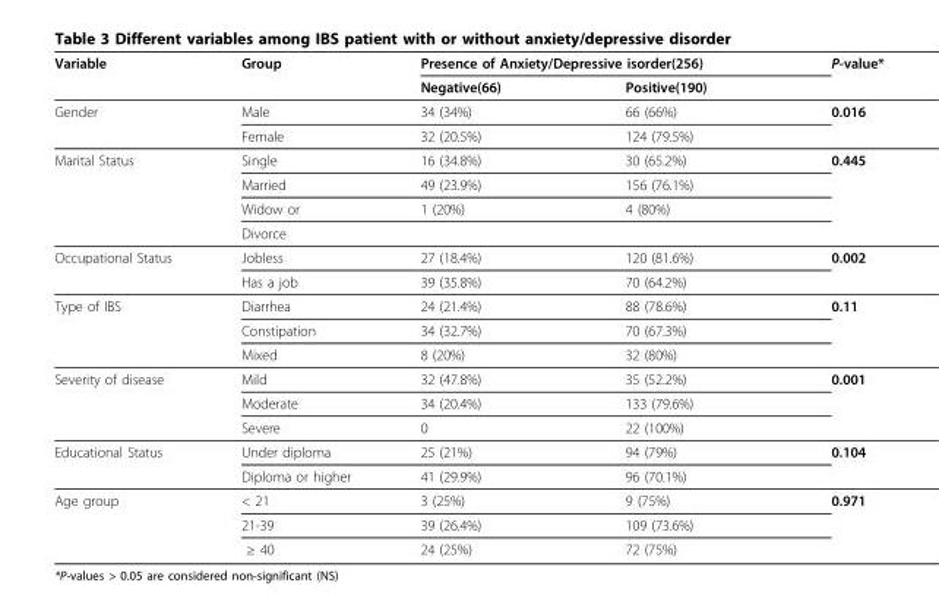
<table><thead><tr><td rowspan="2">Variable</td><td rowspan="2">Group</td><td colspan="2">Presence of Anxiety/Depressive isorder(256)</td><td rowspan="2">P-value*</td></tr><tr><td>Negative(66)</td><td>Positive(190)</td></tr></thead><tbody><tr><td rowspan="2">Gender</td><td>Male</td><td>34 (34%)</td><td>66 (66%)</td><td>0.016</td></tr><tr><td>Female</td><td>32 (20.5%)</td><td>124 (79.5%)</td><td></td></tr><tr><td rowspan="4">Marital Status</td><td>Single</td><td>16 (34.8%)</td><td>30 (65.2%)</td><td>0.445</td></tr><tr><td>Married</td><td>49 (23.9%)</td><td>156 (76.1%)</td><td></td></tr><tr><td>Widow or</td><td>1 (20%)</td><td>4 (80%)</td><td></td></tr><tr><td>Divorce</td><td></td><td></td><td></td></tr><tr><td rowspan="2">Occupational Status</td><td>Jobless</td><td>27 (18.4%)</td><td>120 (81.6%)</td><td>0.002</td></tr><tr><td>Has a job</td><td>39 (35.8%)</td><td>70 (64.2%)</td><td></td></tr><tr><td rowspan="3">Type of IBS</td><td>Diarrhea</td><td>24 (21.4%)</td><td>88 (78.6%)</td><td>0.11</td></tr><tr><td>Constipation</td><td>34 (32.7%)</td><td>70 (67.3%)</td><td></td></tr><tr><td>Mixed</td><td>8 (20%)</td><td>32 (80%)</td><td></td></tr><tr><td rowspan="3">Severity of disease</td><td>Mild</td><td>32 (47.8%)</td><td>35 (52.2%)</td><td>0.001</td></tr><tr><td>Moderate</td><td>34 (20.4%)</td><td>133 (79.6%)</td><td></td></tr><tr><td>Severe</td><td>0</td><td>22 (100%)</td><td></td></tr><tr><td rowspan="2">Educational Status</td><td>Under diploma</td><td>25 (21%)</td><td>94 (79%)</td><td>0.104</td></tr><tr><td>Diploma or higher</td><td>41 (29.9%)</td><td>96 (70.1%)</td><td></td></tr><tr><td rowspan="3">Age group</td><td>&lt; 21</td><td>3 (25%)</td><td>9 (75%)</td><td>0.971</td></tr><tr><td>21-39</td><td>39 (26.4%)</td><td>109 (73.6%)</td><td></td></tr><tr><td>≥ 40</td><td>24 (25%)</td><td>72 (75%)</td><td></td></tr></tbody></table>